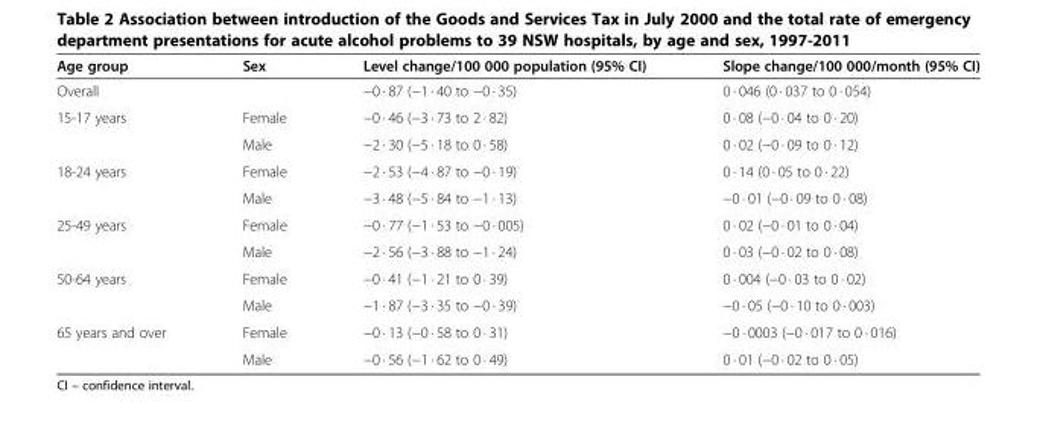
<table><thead><tr><td>Age group</td><td>Sex</td><td>Level change/100 000 population (95% CI)</td><td>Slope change/100 000/month (95% CI)</td></tr></thead><tbody><tr><td>Overall</td><td></td><td>−0 · 87 (−1 · 40 to −0 · 35)</td><td>0 · 046 (0 · 037 to 0 · 054)</td></tr><tr><td rowspan="2">15-17 years</td><td>Female</td><td>−0 · 46 (−3 · 73 to 2 · 82)</td><td>0 · 08 (−0 · 04 to 0 · 20)</td></tr><tr><td>Male</td><td>−2 · 30 (−5 · 18 to 0 · 58)</td><td>0 · 02 (−0 · 09 to 0 · 12)</td></tr><tr><td rowspan="2">18-24 years</td><td>Female</td><td>−2 · 53 (−4 · 87 to −0 · 19)</td><td>0 · 14 (0 · 05 to 0 · 22)</td></tr><tr><td>Male</td><td>−3 · 48 (−5 · 84 to −1 · 13)</td><td>−0 · 01 (−0 · 09 to 0 · 08)</td></tr><tr><td rowspan="2">25-49 years</td><td>Female</td><td>−0 · 77 (−1 · 53 to −0 · 005)</td><td>0 · 02 (−0 · 01 to 0 · 04)</td></tr><tr><td>Male</td><td>−2 · 56 (−3 · 88 to −1 · 24)</td><td>0 · 03 (−0 · 02 to 0 · 08)</td></tr><tr><td rowspan="2">50-64 years</td><td>Female</td><td>−0 · 41 (−1 · 21 to 0 · 39)</td><td>0 · 004 (−0 · 03 to 0 · 02)</td></tr><tr><td>Male</td><td>−1 · 87 (−3 · 35 to −0 · 39)</td><td>−0 · 05 (−0 · 10 to 0 · 003)</td></tr><tr><td rowspan="2">65 years and over</td><td>Female</td><td>−0 · 13 (−0 · 58 to 0 · 31)</td><td>−0 · 0003 (−0 · 017 to 0 · 016)</td></tr><tr><td>Male</td><td>−0 · 56 (−1 · 62 to 0 · 49)</td><td>0 · 01 (−0 · 02 to 0 · 05)</td></tr></tbody></table>